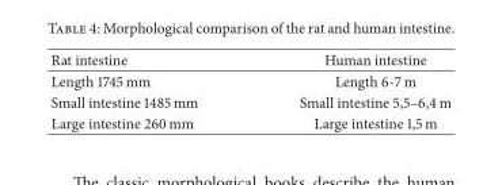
<table><thead><tr><td>Rat intestine</td><td>Human intestine</td></tr></thead><tbody><tr><td>Length 1745 mm</td><td>Length 6-7 m</td></tr><tr><td>Small intestine 1485 mm</td><td>Small intestine 5,5–6,4 m</td></tr><tr><td>Large intestine 260 mm</td><td>Large intestine 1,5 m</td></tr></tbody></table>